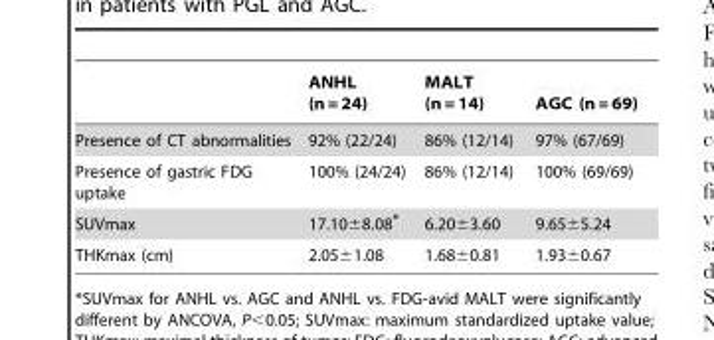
<table><thead><tr><td></td><td>ANHL (n = 24)</td><td>MALT (n = 14)</td><td>AGC (n = 69)</td></tr></thead><tbody><tr><td>Presence of CT abnormalities</td><td>92% (22/24)</td><td>86% (12/14)</td><td>97% (67/69)</td></tr><tr><td>Presence of gastric FDG uptake</td><td>100% (24/24)</td><td>86% (12/14)</td><td>100% (69/69)</td></tr><tr><td>SUVmax</td><td>17.10±8.08*</td><td>6.20±3.60</td><td>9.65±5.24</td></tr><tr><td>THKmax (cm)</td><td>2.05±1.08</td><td>1.68±0.81</td><td>1.93±0.67</td></tr></tbody></table>